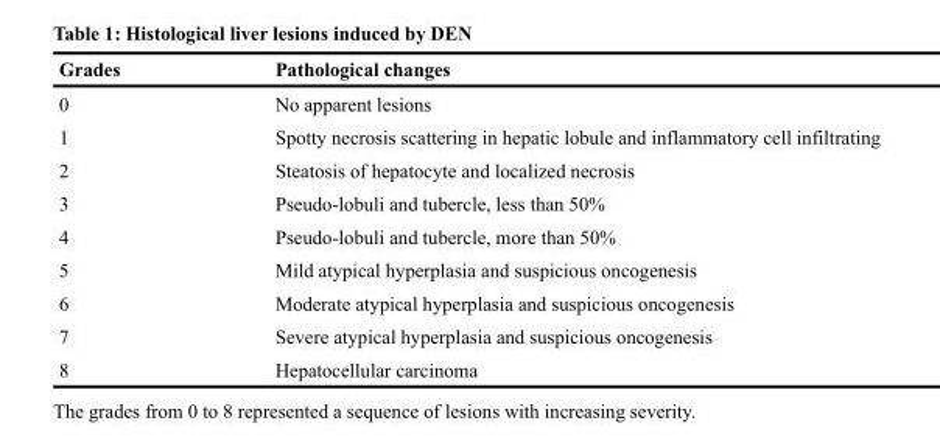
<table><thead><tr><td>Grades</td><td>Pathological changes</td></tr></thead><tbody><tr><td>0</td><td>No apparent lesions</td></tr><tr><td>1</td><td>Spotty necrosis scattering in hepatic lobule and inflammatory cell infiltrating</td></tr><tr><td>2</td><td>Steatosis of hepatocyte and localized necrosis</td></tr><tr><td>3</td><td>Pseudo-lobuli and tubercle, less than 50%</td></tr><tr><td>4</td><td>Pseudo-lobuli and tubercle, more than 50%</td></tr><tr><td>5</td><td>Mild atypical hyperplasia and suspicious oncogenesis</td></tr><tr><td>6</td><td>Moderate atypical hyperplasia and suspicious oncogenesis</td></tr><tr><td>7</td><td>Severe atypical hyperplasia and suspicious oncogenesis</td></tr><tr><td>8</td><td>Hepatocellular carcinoma</td></tr></tbody></table>